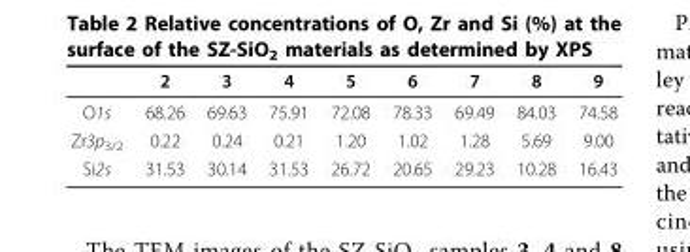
<table><thead><tr><td></td><td>2</td><td>3</td><td>4</td><td>5</td><td>6</td><td>7</td><td>8</td><td>9</td></tr></thead><tbody><tr><td>O1s</td><td>68.26</td><td>69.63</td><td>75.91</td><td>72.08</td><td>78.33</td><td>69.49</td><td>84.03</td><td>74.58</td></tr><tr><td>Zr3p<sub>3/2</sub></td><td>0.22</td><td>0.24</td><td>0.21</td><td>1.20</td><td>1.02</td><td>1.28</td><td>5.69</td><td>9.00</td></tr><tr><td>Si2s</td><td>31.53</td><td>30.14</td><td>31.53</td><td>26.72</td><td>20.65</td><td>29.23</td><td>10.28</td><td>16.43</td></tr></tbody></table>